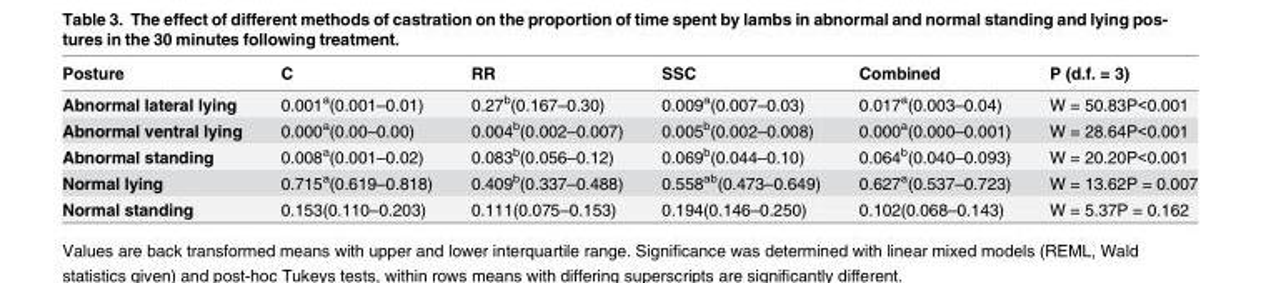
<table><thead><tr><td>Posture</td><td>C</td><td>RR</td><td>SSC</td><td>Combined</td><td>P (d.f. = 3)</td></tr></thead><tbody><tr><td>Abnormal lateral lying</td><td>0.001<sup>a</sup>(0.001–0.01)</td><td>0.27<sup>b</sup>(0.167–0.30)</td><td>0.009<sup>a</sup>(0.007–0.03)</td><td>0.017<sup>a</sup>(0.003–0.04)</td><td>W = 50.83P&lt;0.001</td></tr><tr><td>Abnormal ventral lying</td><td>0.000<sup>a</sup>(0.00–0.00)</td><td>0.004<sup>b</sup>(0.002–0.007)</td><td>0.005<sup>b</sup>(0.002–0.008)</td><td>0.000<sup>a</sup>(0.000–0.001)</td><td>W = 28.64P&lt;0.001</td></tr><tr><td>Abnormal standing</td><td>0.008<sup>a</sup>(0.001–0.02)</td><td>0.083<sup>b</sup>(0.056–0.12)</td><td>0.069<sup>b</sup>(0.044–0.10)</td><td>0.064<sup>b</sup>(0.040–0.093)</td><td>W = 20.20P&lt;0.001</td></tr><tr><td>Normal lying</td><td>0.715<sup>a</sup>(0.619–0.818)</td><td>0.409<sup>b</sup>(0.337–0.488)</td><td>0.558<sup>ab</sup>(0.473–0.649)</td><td>0.627<sup>a</sup>(0.537–0.723)</td><td>W = 13.62P = 0.007</td></tr><tr><td>Normal standing</td><td>0.153(0.110–0.203)</td><td>0.111(0.075–0.153)</td><td>0.194(0.146–0.250)</td><td>0.102(0.068–0.143)</td><td>W = 5.37P = 0.162</td></tr></tbody></table>